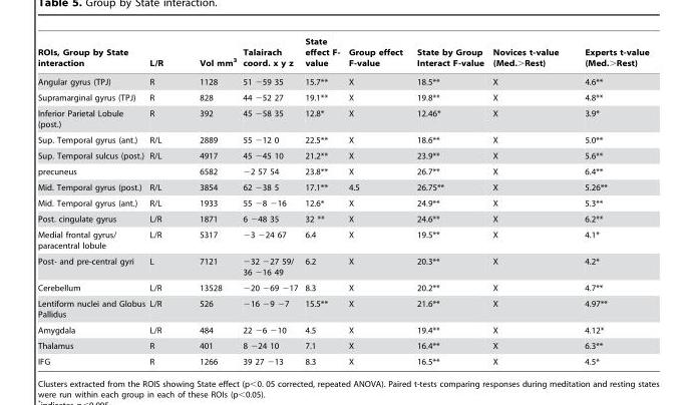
<table><thead><tr><td>ROIs, Group by State interaction</td><td>L/R</td><td>Vol mm<sup>3</sup></td><td>Talairach coord. x y z</td><td>State effect F- value</td><td>Group effect F-value</td><td>State by Group Interact F-value</td><td>Novices t-value (Med.&gt;Rest)</td><td>Experts t-value (Med.&gt;Rest)</td></tr></thead><tbody><tr><td>Angular gyrus (TPJ)</td><td>R</td><td>1128</td><td>51 −59 35</td><td>15.7**</td><td>X</td><td>18.5**</td><td>X</td><td>4.6**</td></tr><tr><td>Supramarginal gyrus (TPJ)</td><td>R</td><td>828</td><td>44 −52 27</td><td>19.1**</td><td>X</td><td>19.8**</td><td>X</td><td>4.8**</td></tr><tr><td>Inferior Parietal Lobule (post.)</td><td>R</td><td>392</td><td>45 −58 35</td><td>12.8*</td><td>X</td><td>12.46*</td><td>X</td><td>3.9*</td></tr><tr><td>Sup. Temporal gyrus (ant.)</td><td>R/L</td><td>2889</td><td>55 −12 0</td><td>22.5**</td><td>X</td><td>18.6**</td><td>X</td><td>5.0**</td></tr><tr><td>Sup. Temporal sulcus (post.)</td><td>R/L</td><td>4917</td><td>45 −45 10</td><td>21.2**</td><td>X</td><td>23.9**</td><td>X</td><td>5.6**</td></tr><tr><td>precuneus</td><td></td><td>6582</td><td>−2 57 54</td><td>23.8**</td><td>X</td><td>26.7**</td><td>X</td><td>6.4**</td></tr><tr><td>Mid. Temporal gyrus (post.)</td><td>R/L</td><td>3854</td><td>62 −38 5</td><td>17.1**</td><td>4.5</td><td>26.75**</td><td>X</td><td>5.26**</td></tr><tr><td>Mid. Temporal gyrus (ant.)</td><td>R/L</td><td>1933</td><td>55 −8 −16</td><td>12.6*</td><td>X</td><td>24.9**</td><td>X</td><td>5.3**</td></tr><tr><td>Post. cingulate gyrus</td><td>L/R</td><td>1871</td><td>6 −48 35</td><td>32 **</td><td>X</td><td>24.6**</td><td>X</td><td>6.2**</td></tr><tr><td>Medial frontal gyrus/ paracentral lobule</td><td>L/R</td><td>5317</td><td>−3 −24 67</td><td>6.4</td><td>X</td><td>19.5**</td><td>X</td><td>4.1*</td></tr><tr><td>Post- and pre-central gyri</td><td>L</td><td>7121</td><td>−32 −27 59/ 36 −16 49</td><td>6.2</td><td>X</td><td>20.3**</td><td>X</td><td>4.2*</td></tr><tr><td>Cerebellum</td><td>L/R</td><td>13528</td><td>−20 −69 −17</td><td>8.3</td><td>X</td><td>20.2**</td><td>X</td><td>4.7**</td></tr><tr><td>Lentiform nuclei and Globus Pallidus</td><td>L/R</td><td>526</td><td>−16 −9 −7</td><td>15.5**</td><td>X</td><td>21.6**</td><td>X</td><td>4.97**</td></tr><tr><td>Amygdala</td><td>L/R</td><td>484</td><td>22 −6 −10</td><td>4.5</td><td>X</td><td>19.4**</td><td>X</td><td>4.12*</td></tr><tr><td>Thalamus</td><td>R</td><td>401</td><td>8 −24 10</td><td>7.1</td><td>X</td><td>16.4**</td><td>X</td><td>6.3**</td></tr><tr><td>IFG</td><td>R</td><td>1266</td><td>39 27 −13</td><td>8.3</td><td>X</td><td>16.5**</td><td>X</td><td>4.5*</td></tr></tbody></table>